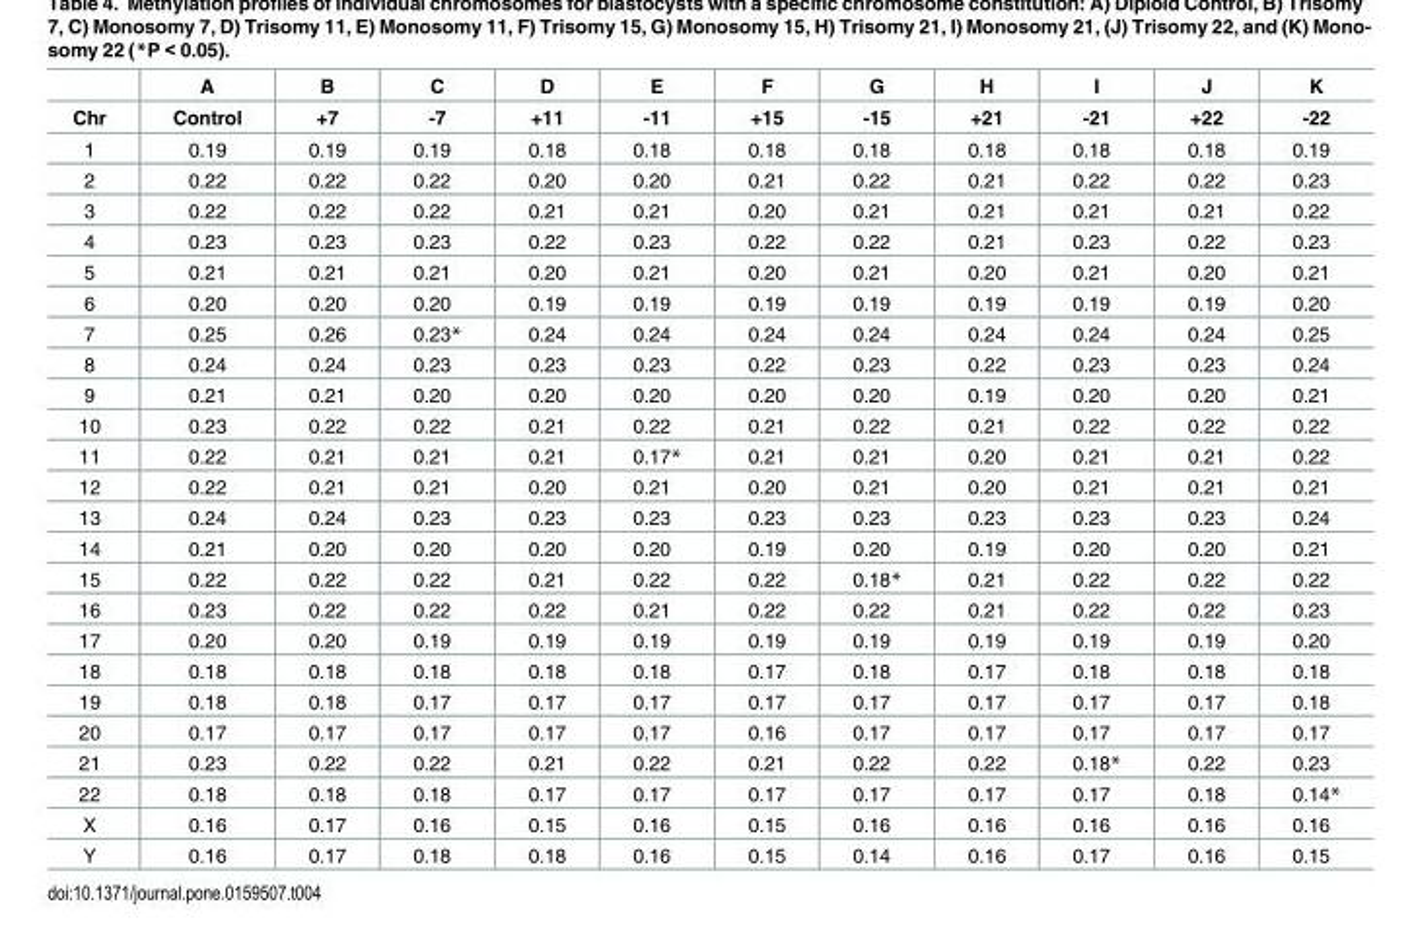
<table><thead><tr><td rowspan="2">Chr</td><td rowspan="2">A Control</td><td rowspan="2">B +7</td><td rowspan="2">C -7</td><td rowspan="2">D +11</td><td rowspan="2">E -11</td><td rowspan="2">F +15</td><td rowspan="2">G -15</td><td rowspan="2">H +21</td><td rowspan="2">I -21</td><td rowspan="2">J +22</td><td rowspan="2">K -22</td></tr><tr></tr></thead><tbody><tr><td>1</td><td>0.19</td><td>0.19</td><td>0.19</td><td>0.18</td><td>0.18</td><td>0.18</td><td>0.18</td><td>0.18</td><td>0.18</td><td>0.18</td><td>0.19</td></tr><tr><td>2</td><td>0.22</td><td>0.22</td><td>0.22</td><td>0.20</td><td>0.20</td><td>0.21</td><td>0.22</td><td>0.21</td><td>0.22</td><td>0.22</td><td>0.23</td></tr><tr><td>3</td><td>0.22</td><td>0.22</td><td>0.22</td><td>0.21</td><td>0.21</td><td>0.20</td><td>0.21</td><td>0.21</td><td>0.21</td><td>0.21</td><td>0.22</td></tr><tr><td>4</td><td>0.23</td><td>0.23</td><td>0.23</td><td>0.22</td><td>0.23</td><td>0.22</td><td>0.22</td><td>0.21</td><td>0.23</td><td>0.22</td><td>0.23</td></tr><tr><td>5</td><td>0.21</td><td>0.21</td><td>0.21</td><td>0.20</td><td>0.21</td><td>0.20</td><td>0.21</td><td>0.20</td><td>0.21</td><td>0.20</td><td>0.21</td></tr><tr><td>6</td><td>0.20</td><td>0.20</td><td>0.20</td><td>0.19</td><td>0.19</td><td>0.19</td><td>0.19</td><td>0.19</td><td>0.19</td><td>0.19</td><td>0.20</td></tr><tr><td>7</td><td>0.25</td><td>0.26</td><td>0.23*</td><td>0.24</td><td>0.24</td><td>0.24</td><td>0.24</td><td>0.24</td><td>0.24</td><td>0.24</td><td>0.25</td></tr><tr><td>8</td><td>0.24</td><td>0.24</td><td>0.23</td><td>0.23</td><td>0.23</td><td>0.22</td><td>0.23</td><td>0.22</td><td>0.23</td><td>0.23</td><td>0.24</td></tr><tr><td>9</td><td>0.21</td><td>0.21</td><td>0.20</td><td>0.20</td><td>0.20</td><td>0.20</td><td>0.20</td><td>0.19</td><td>0.20</td><td>0.20</td><td>0.21</td></tr><tr><td>10</td><td>0.23</td><td>0.22</td><td>0.22</td><td>0.21</td><td>0.22</td><td>0.21</td><td>0.22</td><td>0.21</td><td>0.22</td><td>0.22</td><td>0.22</td></tr><tr><td>11</td><td>0.22</td><td>0.21</td><td>0.21</td><td>0.21</td><td>0.17*</td><td>0.21</td><td>0.21</td><td>0.20</td><td>0.21</td><td>0.21</td><td>0.22</td></tr><tr><td>12</td><td>0.22</td><td>0.21</td><td>0.21</td><td>0.20</td><td>0.21</td><td>0.20</td><td>0.21</td><td>0.20</td><td>0.21</td><td>0.21</td><td>0.21</td></tr><tr><td>13</td><td>0.24</td><td>0.24</td><td>0.23</td><td>0.23</td><td>0.23</td><td>0.23</td><td>0.23</td><td>0.23</td><td>0.23</td><td>0.23</td><td>0.24</td></tr><tr><td>14</td><td>0.21</td><td>0.20</td><td>0.20</td><td>0.20</td><td>0.20</td><td>0.19</td><td>0.20</td><td>0.19</td><td>0.20</td><td>0.20</td><td>0.21</td></tr><tr><td>15</td><td>0.22</td><td>0.22</td><td>0.22</td><td>0.21</td><td>0.22</td><td>0.22</td><td>0.18*</td><td>0.21</td><td>0.22</td><td>0.22</td><td>0.22</td></tr><tr><td>16</td><td>0.23</td><td>0.22</td><td>0.22</td><td>0.22</td><td>0.21</td><td>0.22</td><td>0.22</td><td>0.21</td><td>0.22</td><td>0.22</td><td>0.23</td></tr><tr><td>17</td><td>0.20</td><td>0.20</td><td>0.19</td><td>0.19</td><td>0.19</td><td>0.19</td><td>0.19</td><td>0.19</td><td>0.19</td><td>0.19</td><td>0.20</td></tr><tr><td>18</td><td>0.18</td><td>0.18</td><td>0.18</td><td>0.18</td><td>0.18</td><td>0.17</td><td>0.18</td><td>0.17</td><td>0.18</td><td>0.18</td><td>0.18</td></tr><tr><td>19</td><td>0.18</td><td>0.18</td><td>0.17</td><td>0.17</td><td>0.17</td><td>0.17</td><td>0.17</td><td>0.17</td><td>0.17</td><td>0.17</td><td>0.18</td></tr><tr><td>20</td><td>0.17</td><td>0.17</td><td>0.17</td><td>0.17</td><td>0.17</td><td>0.16</td><td>0.17</td><td>0.17</td><td>0.17</td><td>0.17</td><td>0.17</td></tr><tr><td>21</td><td>0.23</td><td>0.22</td><td>0.22</td><td>0.21</td><td>0.22</td><td>0.21</td><td>0.22</td><td>0.22</td><td>0.18*</td><td>0.22</td><td>0.23</td></tr><tr><td>22</td><td>0.18</td><td>0.18</td><td>0.18</td><td>0.17</td><td>0.17</td><td>0.17</td><td>0.17</td><td>0.17</td><td>0.17</td><td>0.18</td><td>0.14*</td></tr><tr><td>X</td><td>0.16</td><td>0.17</td><td>0.16</td><td>0.15</td><td>0.16</td><td>0.15</td><td>0.16</td><td>0.16</td><td>0.16</td><td>0.16</td><td>0.16</td></tr><tr><td>Y</td><td>0.16</td><td>0.17</td><td>0.18</td><td>0.18</td><td>0.16</td><td>0.15</td><td>0.14</td><td>0.16</td><td>0.17</td><td>0.16</td><td>0.15</td></tr></tbody></table>